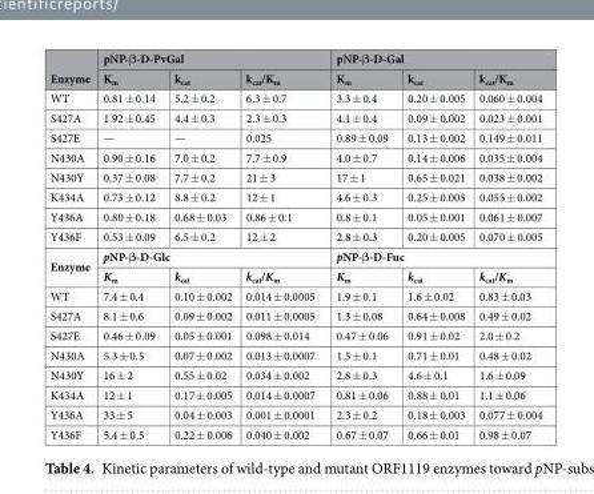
<table><thead><tr><td rowspan="2">Enzyme</td><td colspan="3">pNP-β-D-PvGal</td><td colspan="3">pNP-β-D-Gal</td></tr><tr><td>K<sub>m</sub></td><td>k<sub>cat</sub></td><td>k<sub>cat</sub>/K<sub>m</sub></td><td>K<sub>m</sub></td><td>k<sub>cat</sub></td><td>k<sub>cat</sub>/K<sub>m</sub></td></tr></thead><tbody><tr><td>WT</td><td>0.81 ± 0.14</td><td>5.2 ± 0.2</td><td>6.3 ± 0.7</td><td>3.3 ± 0.4</td><td>0.20 ± 0.005</td><td>0.060 ± 0.004</td></tr><tr><td>S427A</td><td>1.92 ± 0.45</td><td>4.4 ± 0.3</td><td>2.3 ± 0.3</td><td>4.1 ± 0.4</td><td>0.09 ± 0.002</td><td>0.023 ± 0.001</td></tr><tr><td>S427E</td><td>—</td><td>—</td><td>0.025</td><td>0.89 ± 0.09</td><td>0.13 ± 0.002</td><td>0.149 ± 0.011</td></tr><tr><td>N430A</td><td>0.90 ± 0.16</td><td>7.0 ± 0.2</td><td>7.7 ± 0.9</td><td>4.0 ± 0.7</td><td>0.14 ± 0.006</td><td>0.035 ± 0.004</td></tr><tr><td>N430Y</td><td>0.37 ± 0.08</td><td>7.7 ± 0.2</td><td>21 ± 3</td><td>17 ± 1</td><td>0.65 ± 0.021</td><td>0.038 ± 0.002</td></tr><tr><td>K434A</td><td>0.73 ± 0.12</td><td>8.8 ± 0.2</td><td>12 ± 1</td><td>4.6 ± 0.3</td><td>0.25 ± 0.005</td><td>0.055 ± 0.002</td></tr><tr><td>Y436A</td><td>0.80 ± 0.18</td><td>0.68 ± 0.03</td><td>0.86 ± 0.1</td><td>0.8 ± 0.1</td><td>0.05 ± 0.001</td><td>0.061 ± 0.007</td></tr><tr><td>Y436F</td><td>0.53 ± 0.09</td><td>6.5 ± 0.2</td><td>12 ± 2</td><td>2.8 ± 0.3</td><td>0.20 ± 0.005</td><td>0.070 ± 0.005</td></tr><tr><td rowspan="2">Enzyme</td><td colspan="3">pNP-β-D-Glc</td><td colspan="3">pNP-β-D-Fuc</td></tr><tr><td>K<sub>m</sub></td><td>k<sub>cat</sub></td><td>k<sub>cat</sub>/K<sub>m</sub></td><td>K<sub>m</sub></td><td>k<sub>cat</sub></td><td>k<sub>cat</sub>/K<sub>m</sub></td></tr><tr><td>WT</td><td>7.4 ± 0.4</td><td>0.10 ± 0.002</td><td>0.014 ± 0.0005</td><td>1.9 ± 0.1</td><td>1.6 ± 0.02</td><td>0.83 ± 0.03</td></tr><tr><td>S427A</td><td>8.1 ± 0.6</td><td>0.09 ± 0.002</td><td>0.011 ± 0.0005</td><td>1.3 ± 0.08</td><td>0.64 ± 0.008</td><td>0.49 ± 0.02</td></tr><tr><td>S427E</td><td>0.46 ± 0.09</td><td>0.05 ± 0.001</td><td>0.098 ± 0.014</td><td>0.47 ± 0.06</td><td>0.91 ± 0.02</td><td>2.0 ± 0.2</td></tr><tr><td>N430A</td><td>5.3 ± 0.5</td><td>0.07 ± 0.002</td><td>0.013 ± 0.0007</td><td>1.5 ± 0.1</td><td>0.71 ± 0.01</td><td>0.48 ± 0.02</td></tr><tr><td>N430Y</td><td>16 ± 2</td><td>0.55 ± 0.02</td><td>0.034 ± 0.002</td><td>2.8 ± 0.3</td><td>4.6 ± 0.1</td><td>1.6 ± 0.09</td></tr><tr><td>K434A</td><td>12 ± 1</td><td>0.17 ± 0.005</td><td>0.014 ± 0.0007</td><td>0.81 ± 0.06</td><td>0.88 ± 0.01</td><td>1.1 ± 0.06</td></tr><tr><td>Y436A</td><td>33 ± 5</td><td>0.04 ± 0.003</td><td>0.001 ± 0.0001</td><td>2.3 ± 0.2</td><td>0.18 ± 0.003</td><td>0.077 ± 0.004</td></tr><tr><td>Y436F</td><td>5.4 ± 0.5</td><td>0.22 ± 0.006</td><td>0.040 ± 0.002</td><td>0.67 ± 0.07</td><td>0.66 ± 0.01</td><td>0.98 ± 0.07</td></tr></tbody></table>